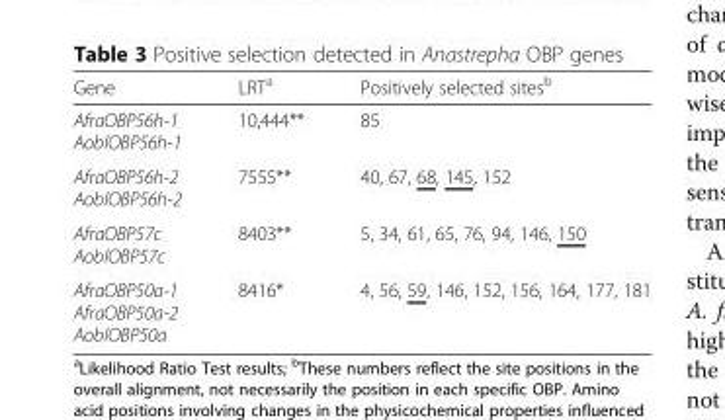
<table><thead><tr><td>Gene</td><td>LRT<sup>a</sup></td><td>Positively selected sites<sup>b</sup></td></tr></thead><tbody><tr><td>AfraOBP56h-1 AoblOBP56h-1</td><td>10,444**</td><td>85</td></tr><tr><td>AfraOBP56h-2 AoblOBP56h-2</td><td>7555**</td><td>40, 67, 68, 145, 152</td></tr><tr><td>AfraOBP57c AoblOBP57c</td><td>8403**</td><td>5, 34, 61, 65, 76, 94, 146, 150</td></tr><tr><td>AfraOBP50a-1 AfraOBP50a-2 AoblOBP50a</td><td>8416*</td><td>4, 56, 59, 146, 152, 156, 164, 177, 181</td></tr></tbody></table>